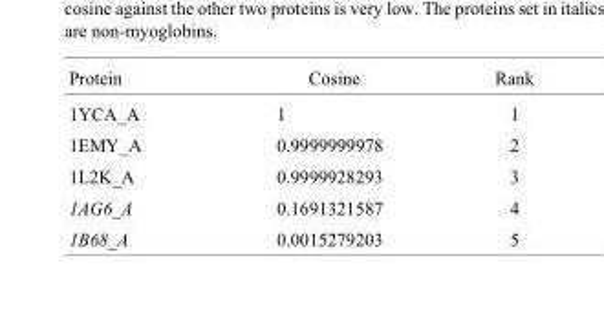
<table><thead><tr><td>Protein</td><td>Cosine</td><td>Rank</td></tr></thead><tbody><tr><td>1YCA_A</td><td>1</td><td>1</td></tr><tr><td>1EMY_A</td><td>0.9999999978</td><td>2</td></tr><tr><td>1L2K_A</td><td>0.9999928293</td><td>3</td></tr><tr><td>1AG6_A</td><td>0.1691321587</td><td>4</td></tr><tr><td>1B68_A</td><td>0.0015279203</td><td>5</td></tr></tbody></table>